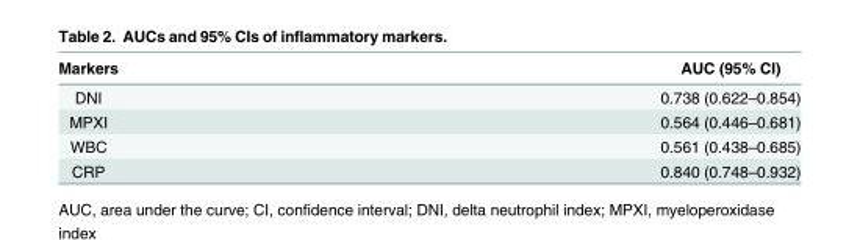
<table><thead><tr><td>Markers</td><td>AUC (95% CI)</td></tr></thead><tbody><tr><td>DNI</td><td>0.738 (0.622–0.854)</td></tr><tr><td>MPXI</td><td>0.564 (0.446–0.681)</td></tr><tr><td>WBC</td><td>0.561 (0.438–0.685)</td></tr><tr><td>CRP</td><td>0.840 (0.748–0.932)</td></tr></tbody></table>